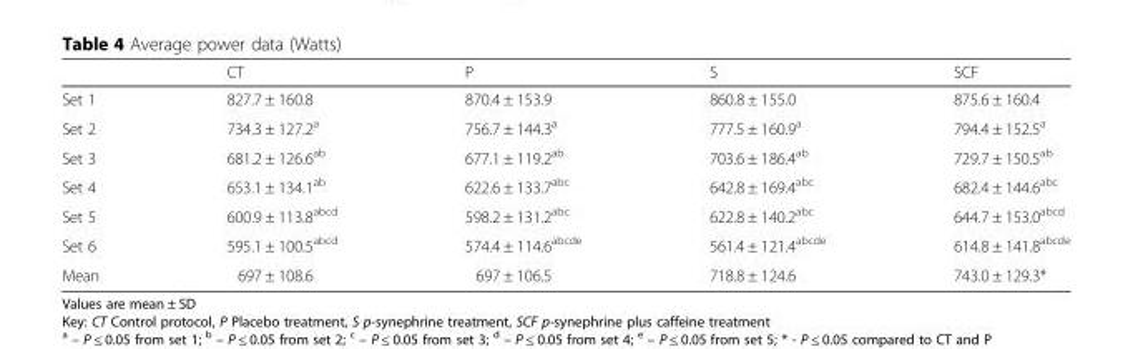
<table><thead><tr><td></td><td>CT</td><td>P</td><td>S</td><td>SCF</td></tr></thead><tbody><tr><td>Set 1</td><td>827.7 ± 160.8</td><td>870.4 ± 153.9</td><td>860.8 ± 155.0</td><td>875.6 ± 160.4</td></tr><tr><td>Set 2</td><td>734.3 ± 127.2<sup>a</sup></td><td>756.7 ± 144.3<sup>a</sup></td><td>777.5 ± 160.9<sup>a</sup></td><td>794.4 ± 152.5<sup>a</sup></td></tr><tr><td>Set 3</td><td>681.2 ± 126.6<sup>ab</sup></td><td>677.1 ± 119.2<sup>ab</sup></td><td>703.6 ± 186.4<sup>ab</sup></td><td>729.7 ± 150.5<sup>ab</sup></td></tr><tr><td>Set 4</td><td>653.1 ± 134.1<sup>ab</sup></td><td>622.6 ± 133.7<sup>abc</sup></td><td>642.8 ± 169.4<sup>abc</sup></td><td>682.4 ± 144.6<sup>abc</sup></td></tr><tr><td>Set 5</td><td>600.9 ± 113.8<sup>abcd</sup></td><td>598.2 ± 131.2<sup>abc</sup></td><td>622.8 ± 140.2<sup>abc</sup></td><td>644.7 ± 153.0<sup>abcd</sup></td></tr><tr><td>Set 6</td><td>595.1 ± 100.5<sup>abcd</sup></td><td>574.4 ± 114.6<sup>abcde</sup></td><td>561.4 ± 121.4<sup>abcde</sup></td><td>614.8 ± 141.8<sup>abcde</sup></td></tr><tr><td>Mean</td><td>697 ± 108.6</td><td>697 ± 106.5</td><td>718.8 ± 124.6</td><td>743.0 ± 129.3*</td></tr></tbody></table>